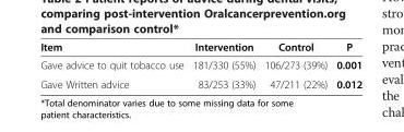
<table><thead><tr><td>Item</td><td>Intervention</td><td>Control</td><td>P</td></tr></thead><tbody><tr><td>Gave advice to quit tobacco use</td><td>181/330 (55%)</td><td>106/273 (39%)</td><td>0.001</td></tr><tr><td>Gave Written advice</td><td>83/253 (33%)</td><td>47/211 (22%)</td><td>0.012</td></tr></tbody></table>